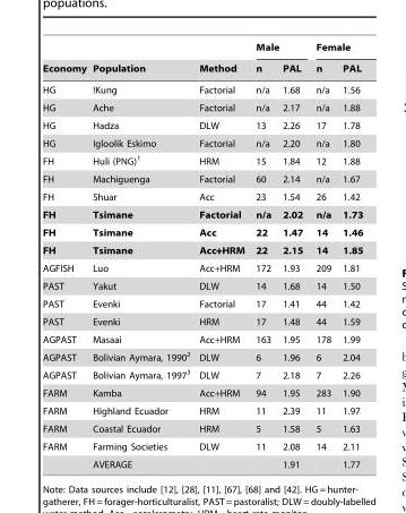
<table><thead><tr><td rowspan="2">Economy</td><td rowspan="2">Population</td><td rowspan="2">Method</td><td colspan="2">Male</td><td colspan="2">Female</td></tr><tr><td>n</td><td>PAL</td><td>n</td><td>PAL</td></tr></thead><tbody><tr><td>HG</td><td>!Kung</td><td>Factorial</td><td>n/a</td><td>1.68</td><td>n/a</td><td>1.56</td></tr><tr><td>HG</td><td>Ache</td><td>Factorial</td><td>n/a</td><td>2.17</td><td>n/a</td><td>1.88</td></tr><tr><td>HG</td><td>Hadza</td><td>DLW</td><td>13</td><td>2.26</td><td>17</td><td>1.78</td></tr><tr><td>HG</td><td>Igloolik Eskimo</td><td>Factorial</td><td>n/a</td><td>2.20</td><td>n/a</td><td>1.80</td></tr><tr><td>FH</td><td>Huli (PNG)<sup>1</sup></td><td>HRM</td><td>15</td><td>1.84</td><td>12</td><td>1.88</td></tr><tr><td>FH</td><td>Machiguenga</td><td>Factorial</td><td>60</td><td>2.14</td><td>n/a</td><td>1.67</td></tr><tr><td>FH</td><td>Shuar</td><td>Acc</td><td>23</td><td>1.54</td><td>26</td><td>1.42</td></tr><tr><td>FH</td><td>Tsimane</td><td>Factorial</td><td>n/a</td><td>2.02</td><td>n/a</td><td>1.73</td></tr><tr><td>FH</td><td>Tsimane</td><td>Acc</td><td>22</td><td>1.47</td><td>14</td><td>1.46</td></tr><tr><td>FH</td><td>Tsimane</td><td>Acc+HRM</td><td>22</td><td>2.15</td><td>14</td><td>1.85</td></tr><tr><td>AGFISH</td><td>Luo</td><td>Acc+HRM</td><td>172</td><td>1.93</td><td>209</td><td>1.81</td></tr><tr><td>PAST</td><td>Yakut</td><td>DLW</td><td>14</td><td>1.68</td><td>14</td><td>1.50</td></tr><tr><td>PAST</td><td>Evenki</td><td>Factorial</td><td>17</td><td>1.41</td><td>44</td><td>1.42</td></tr><tr><td>PAST</td><td>Evenki</td><td>HRM</td><td>17</td><td>1.48</td><td>44</td><td>1.59</td></tr><tr><td>AGPAST</td><td>Masaai</td><td>Acc+HRM</td><td>163</td><td>1.95</td><td>178</td><td>1.99</td></tr><tr><td>AGPAST</td><td>Bolivian Aymara, 1990<sup>2</sup></td><td>DLW</td><td>6</td><td>1.96</td><td>6</td><td>2.04</td></tr><tr><td>AGPAST</td><td>Bolivian Aymara, 1997<sup>3</sup></td><td>DLW</td><td>7</td><td>2.18</td><td>7</td><td>2.26</td></tr><tr><td>FARM</td><td>Kamba</td><td>Acc+HRM</td><td>94</td><td>1.95</td><td>283</td><td>1.90</td></tr><tr><td>FARM</td><td>Highland Ecuador</td><td>HRM</td><td>11</td><td>2.39</td><td>11</td><td>1.97</td></tr><tr><td>FARM</td><td>Coastal Ecuador</td><td>HRM</td><td>5</td><td>1.58</td><td>5</td><td>1.63</td></tr><tr><td rowspan="2">FARM</td><td>Farming Societies</td><td>DLW</td><td>11</td><td>2.08</td><td>14</td><td>2.11</td></tr><tr><td>AVERAGE</td><td></td><td></td><td>1.91</td><td></td><td>1.77</td></tr></tbody></table>